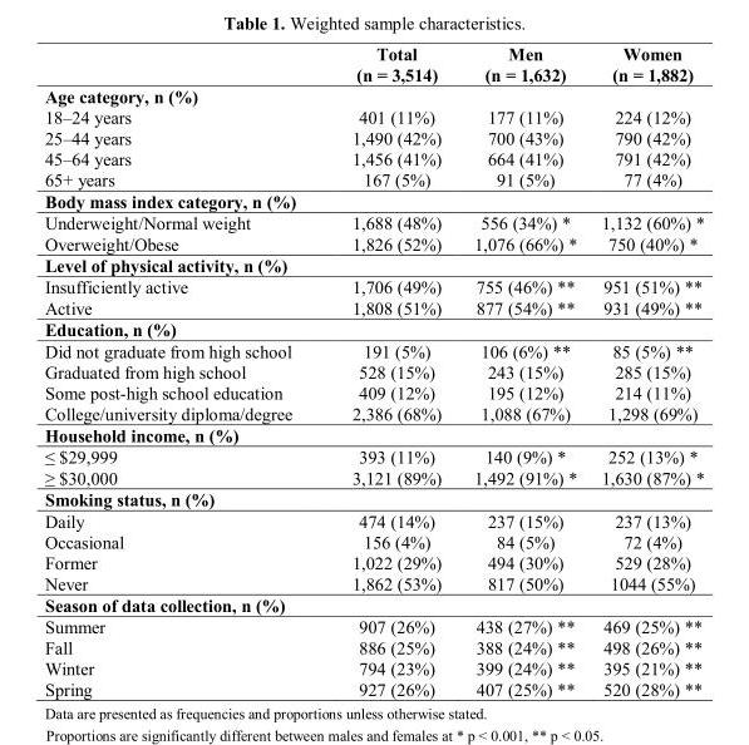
<table><thead><tr><td></td><td>Total (n = 3,514)</td><td>Men (n = 1,632)</td><td>Women (n = 1,882)</td></tr></thead><tbody><tr><td colspan="4">Age category, n (%)</td></tr><tr><td>18–24 years</td><td>401 (11%)</td><td>177 (11%)</td><td>224 (12%)</td></tr><tr><td>25–44 years</td><td>1,490 (42%)</td><td>700 (43%)</td><td>790 (42%)</td></tr><tr><td>45–64 years</td><td>1,456 (41%)</td><td>664 (41%)</td><td>791 (42%)</td></tr><tr><td>65+ years</td><td>167 (5%)</td><td>91 (5%)</td><td>77 (4%)</td></tr><tr><td colspan="4">Body mass index category, n (%)</td></tr><tr><td>Underweight/Normal weight</td><td>1,688 (48%)</td><td>556 (34%) *</td><td>1,132 (60%) *</td></tr><tr><td>Overweight/Obese</td><td>1,826 (52%)</td><td>1,076 (66%) *</td><td>750 (40%) *</td></tr><tr><td colspan="4">Level of physical activity, n (%)</td></tr><tr><td>Insufficiently active</td><td>1,706 (49%)</td><td>755 (46%) **</td><td>951 (51%) **</td></tr><tr><td>Active</td><td>1,808 (51%)</td><td>877 (54%) **</td><td>931 (49%) **</td></tr><tr><td colspan="4">Education, n (%)</td></tr><tr><td>Did not graduate from high school</td><td>191 (5%)</td><td>106 (6%) **</td><td>85 (5%) **</td></tr><tr><td>Graduated from high school</td><td>528 (15%)</td><td>243 (15%)</td><td>285 (15%)</td></tr><tr><td>Some post-high school education</td><td>409 (12%)</td><td>195 (12%)</td><td>214 (11%)</td></tr><tr><td>College/university diploma/degree</td><td>2,386 (68%)</td><td>1,088 (67%)</td><td>1,298 (69%)</td></tr><tr><td colspan="4">Household income, n (%)</td></tr><tr><td>≤ $29,999</td><td>393 (11%)</td><td>140 (9%) *</td><td>252 (13%) *</td></tr><tr><td>≥ $30,000</td><td>3,121 (89%)</td><td>1,492 (91%) *</td><td>1,630 (87%) *</td></tr><tr><td colspan="4">Smoking status, n (%)</td></tr><tr><td>Daily</td><td>474 (14%)</td><td>237 (15%)</td><td>237 (13%)</td></tr><tr><td>Occasional</td><td>156 (4%)</td><td>84 (5%)</td><td>72 (4%)</td></tr><tr><td>Former</td><td>1,022 (29%)</td><td>494 (30%)</td><td>529 (28%)</td></tr><tr><td>Never</td><td>1,862 (53%)</td><td>817 (50%)</td><td>1044 (55%)</td></tr><tr><td colspan="4">Season of data collection, n (%)</td></tr><tr><td>Summer</td><td>907 (26%)</td><td>438 (27%) **</td><td>469 (25%) **</td></tr><tr><td>Fall</td><td>886 (25%)</td><td>388 (24%) **</td><td>498 (26%) **</td></tr><tr><td>Winter</td><td>794 (23%)</td><td>399 (24%) **</td><td>395 (21%) **</td></tr><tr><td>Spring</td><td>927 (26%)</td><td>407 (25%) **</td><td>520 (28%) **</td></tr></tbody></table>